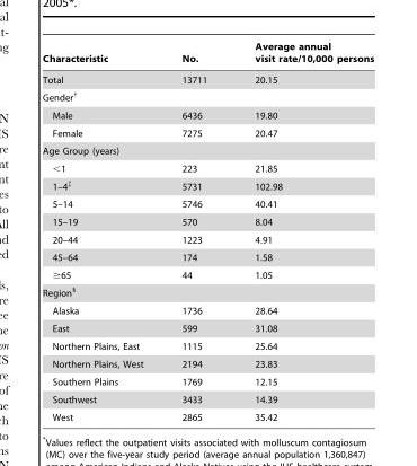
<table><thead><tr><td>Characteristic</td><td>No.</td><td>Average annual visit rate/10,000 persons</td></tr></thead><tbody><tr><td>Total</td><td>13711</td><td>20.15</td></tr><tr><td colspan="3">Gender†</td></tr><tr><td>Male</td><td>6436</td><td>19.80</td></tr><tr><td>Female</td><td>7275</td><td>20.47</td></tr><tr><td colspan="3">Age Group (years)</td></tr><tr><td>&lt;1</td><td>223</td><td>21.85</td></tr><tr><td>1–4‡</td><td>5731</td><td>102.98</td></tr><tr><td>5–14</td><td>5746</td><td>40.41</td></tr><tr><td>15–19</td><td>570</td><td>8.04</td></tr><tr><td>20–44</td><td>1223</td><td>4.91</td></tr><tr><td>45–64</td><td>174</td><td>1.58</td></tr><tr><td>≥65</td><td>44</td><td>1.05</td></tr><tr><td colspan="3">Region§</td></tr><tr><td>Alaska</td><td>1736</td><td>28.64</td></tr><tr><td>East</td><td>599</td><td>31.08</td></tr><tr><td>Northern Plains, East</td><td>1115</td><td>25.64</td></tr><tr><td>Northern Plains, West</td><td>2194</td><td>23.83</td></tr><tr><td>Southern Plains</td><td>1769</td><td>12.15</td></tr><tr><td>Southwest</td><td>3433</td><td>14.39</td></tr><tr><td>West</td><td>2865</td><td>35.42</td></tr></tbody></table>